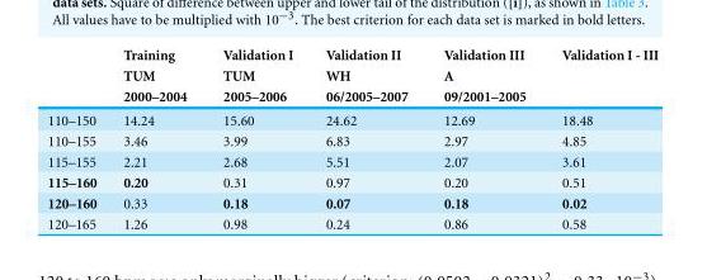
<table><thead><tr><td rowspan="3"></td><td rowspan="3">Training TUM 2000–2004</td><td rowspan="3">Validation I TUM 2005–2006</td><td rowspan="3">Validation II WH 06/2005–2007</td><td rowspan="3">Validation III A 09/2001–2005</td><td rowspan="3">Validation I - III</td></tr><tr></tr><tr></tr></thead><tbody><tr><td>110–150</td><td>14.24</td><td>15.60</td><td>24.62</td><td>12.69</td><td>18.48</td></tr><tr><td>110–155</td><td>3.46</td><td>3.99</td><td>6.83</td><td>2.97</td><td>4.85</td></tr><tr><td>115–155</td><td>2.21</td><td>2.68</td><td>5.51</td><td>2.07</td><td>3.61</td></tr><tr><td>115–160</td><td>0.20</td><td>0.31</td><td>0.97</td><td>0.20</td><td>0.51</td></tr><tr><td>120–160</td><td>0.33</td><td>0.18</td><td>0.07</td><td>0.18</td><td>0.02</td></tr><tr><td>120–165</td><td>1.26</td><td>0.98</td><td>0.24</td><td>0.86</td><td>0.58</td></tr></tbody></table>